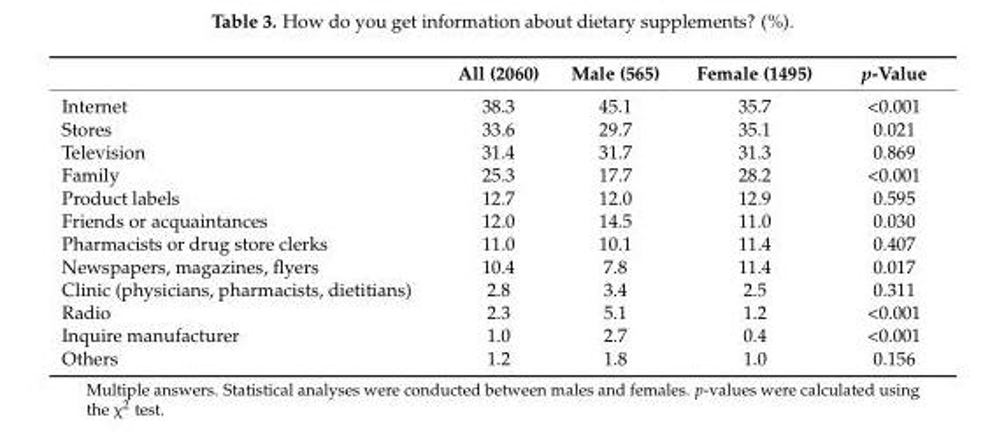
<table><thead><tr><td></td><td>All (2060)</td><td>Male (565)</td><td>Female (1495)</td><td>p-Value</td></tr></thead><tbody><tr><td>Internet</td><td>38.3</td><td>45.1</td><td>35.7</td><td>&lt;0.001</td></tr><tr><td>Stores</td><td>33.6</td><td>29.7</td><td>35.1</td><td>0.021</td></tr><tr><td>Television</td><td>31.4</td><td>31.7</td><td>31.3</td><td>0.869</td></tr><tr><td>Family</td><td>25.3</td><td>17.7</td><td>28.2</td><td>&lt;0.001</td></tr><tr><td>Product labels</td><td>12.7</td><td>12.0</td><td>12.9</td><td>0.595</td></tr><tr><td>Friends or acquaintances</td><td>12.0</td><td>14.5</td><td>11.0</td><td>0.030</td></tr><tr><td>Pharmacists or drug store clerks</td><td>11.0</td><td>10.1</td><td>11.4</td><td>0.407</td></tr><tr><td>Newspapers, magazines, flyers</td><td>10.4</td><td>7.8</td><td>11.4</td><td>0.017</td></tr><tr><td>Clinic (physicians, pharmacists, dietitians)</td><td>2.8</td><td>3.4</td><td>2.5</td><td>0.311</td></tr><tr><td>Radio</td><td>2.3</td><td>5.1</td><td>1.2</td><td>&lt;0.001</td></tr><tr><td>Inquire manufacturer</td><td>1.0</td><td>2.7</td><td>0.4</td><td>&lt;0.001</td></tr><tr><td>Others</td><td>1.2</td><td>1.8</td><td>1.0</td><td>0.156</td></tr></tbody></table>